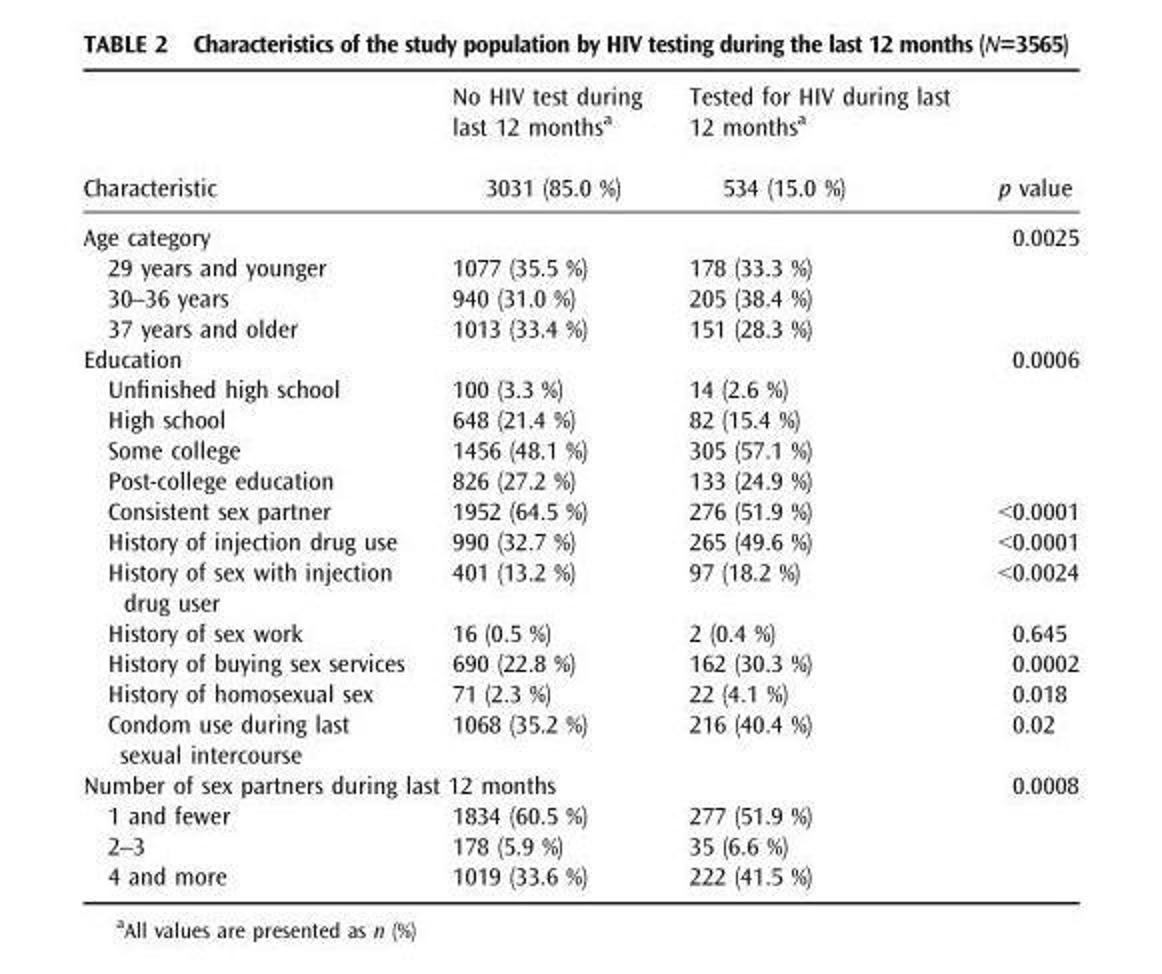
<table><thead><tr><td>Characteristic</td><td>No HIV test during last 12 months<sup>a</sup> 3031 (85.0 %)</td><td>Tested for HIV during last 12 months<sup>a</sup> 534 (15.0 %)</td><td>p value</td></tr></thead><tbody><tr><td colspan="3">Age category</td><td>0.0025</td></tr><tr><td>29 years and younger</td><td>1077 (35.5 %)</td><td>178 (33.3 %)</td><td></td></tr><tr><td>30–36 years</td><td>940 (31.0 %)</td><td>205 (38.4 %)</td><td></td></tr><tr><td>37 years and older</td><td>1013 (33.4 %)</td><td>151 (28.3 %)</td><td></td></tr><tr><td colspan="3">Education</td><td>0.0006</td></tr><tr><td>Unfinished high school</td><td>100 (3.3 %)</td><td>14 (2.6 %)</td><td></td></tr><tr><td>High school</td><td>648 (21.4 %)</td><td>82 (15.4 %)</td><td></td></tr><tr><td>Some college</td><td>1456 (48.1 %)</td><td>305 (57.1 %)</td><td></td></tr><tr><td>Post-college education</td><td>826 (27.2 %)</td><td>133 (24.9 %)</td><td></td></tr><tr><td>Consistent sex partner</td><td>1952 (64.5 %)</td><td>276 (51.9 %)</td><td>&lt;0.0001</td></tr><tr><td>History of injection drug use</td><td>990 (32.7 %)</td><td>265 (49.6 %)</td><td>&lt;0.0001</td></tr><tr><td>History of sex with injection drug user</td><td>401 (13.2 %)</td><td>97 (18.2 %)</td><td>&lt;0.0024</td></tr><tr><td>History of sex work</td><td>16 (0.5 %)</td><td>2 (0.4 %)</td><td>0.645</td></tr><tr><td>History of buying sex services</td><td>690 (22.8 %)</td><td>162 (30.3 %)</td><td>0.0002</td></tr><tr><td>History of homosexual sex</td><td>71 (2.3 %)</td><td>22 (4.1 %)</td><td>0.018</td></tr><tr><td>Condom use during last sexual intercourse</td><td>1068 (35.2 %)</td><td>216 (40.4 %)</td><td>0.02</td></tr><tr><td colspan="3">Number of sex partners during last 12 months</td><td>0.0008</td></tr><tr><td>1 and fewer</td><td>1834 (60.5 %)</td><td>277 (51.9 %)</td><td></td></tr><tr><td>2–3</td><td>178 (5.9 %)</td><td>35 (6.6 %)</td><td></td></tr><tr><td>4 and more</td><td>1019 (33.6 %)</td><td>222 (41.5 %)</td><td></td></tr></tbody></table>